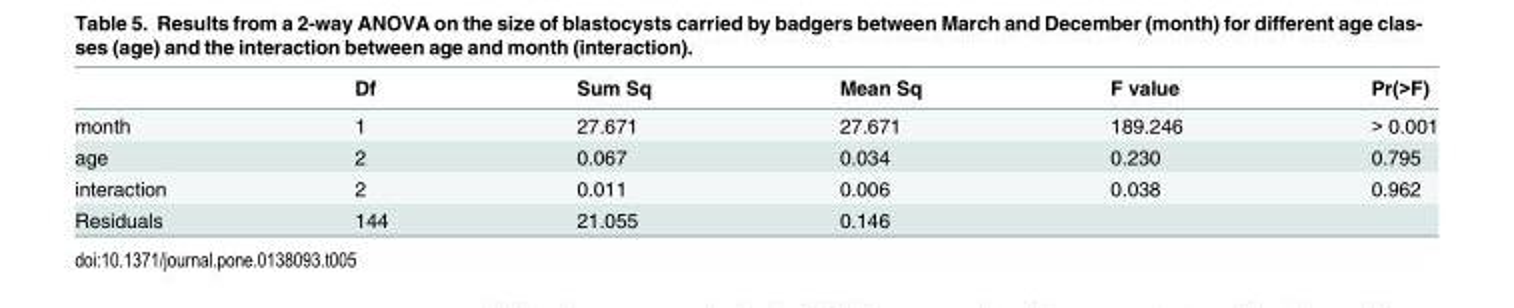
<table><thead><tr><td></td><td>Df</td><td>Sum Sq</td><td>Mean Sq</td><td>F value</td><td>Pr(&gt;F)</td></tr></thead><tbody><tr><td>month</td><td>1</td><td>27.671</td><td>27.671</td><td>189.246</td><td>&gt; 0.001</td></tr><tr><td>age</td><td>2</td><td>0.067</td><td>0.034</td><td>0.230</td><td>0.795</td></tr><tr><td>interaction</td><td>2</td><td>0.011</td><td>0.006</td><td>0.038</td><td>0.962</td></tr><tr><td>Residuals</td><td>144</td><td>21.055</td><td>0.146</td><td></td><td></td></tr></tbody></table>